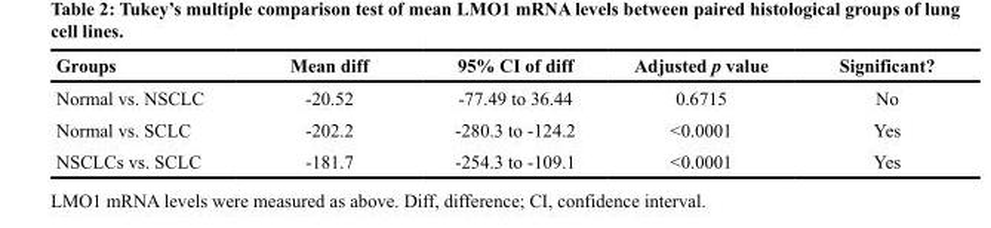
<table><thead><tr><td>Groups</td><td>Mean diff</td><td>95% CI of diff</td><td>Adjusted p value</td><td>Significant?</td></tr></thead><tbody><tr><td>Normal vs. NSCLC</td><td>-20.52</td><td>-77.49 to 36.44</td><td>0.6715</td><td>No</td></tr><tr><td>Normal vs. SCLC</td><td>-202.2</td><td>-280.3 to -124.2</td><td>&lt;0.0001</td><td>Yes</td></tr><tr><td>NSCLCs vs. SCLC</td><td>-181.7</td><td>-254.3 to -109.1</td><td>&lt;0.0001</td><td>Yes</td></tr></tbody></table>